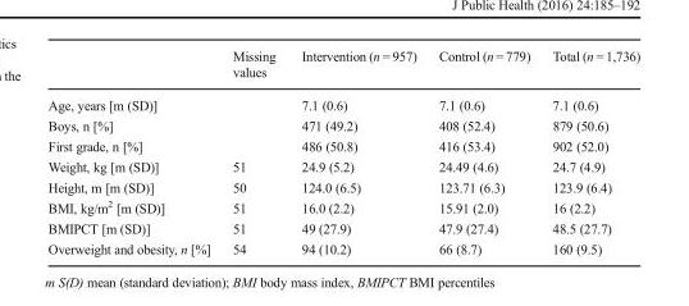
<table><thead><tr><td></td><td>Missing values</td><td>Intervention (n = 957)</td><td>Control (n = 779)</td><td>Total (n = 1,736)</td></tr></thead><tbody><tr><td>Age, years [m (SD)]</td><td></td><td>7.1 (0.6)</td><td>7.1 (0.6)</td><td>7.1 (0.6)</td></tr><tr><td>Boys, n [%]</td><td></td><td>471 (49.2)</td><td>408 (52.4)</td><td>879 (50.6)</td></tr><tr><td>First grade, n [%]</td><td></td><td>486 (50.8)</td><td>416 (53.4)</td><td>902 (52.0)</td></tr><tr><td>Weight, kg [m (SD)]</td><td>51</td><td>24.9 (5.2)</td><td>24.49 (4.6)</td><td>24.7 (4.9)</td></tr><tr><td>Height, m [m (SD)]</td><td>50</td><td>124.0 (6.5)</td><td>123.71 (6.3)</td><td>123.9 (6.4)</td></tr><tr><td>BMI, kg/m<sup>2</sup> [m (SD)]</td><td>51</td><td>16.0 (2.2)</td><td>15.91 (2.0)</td><td>16 (2.2)</td></tr><tr><td>BMIPCT [m (SD)]</td><td>51</td><td>49 (27.9)</td><td>47.9 (27.4)</td><td>48.5 (27.7)</td></tr><tr><td>Overweight and obesity, n [%]</td><td>54</td><td>94 (10.2)</td><td>66 (8.7)</td><td>160 (9.5)</td></tr></tbody></table>